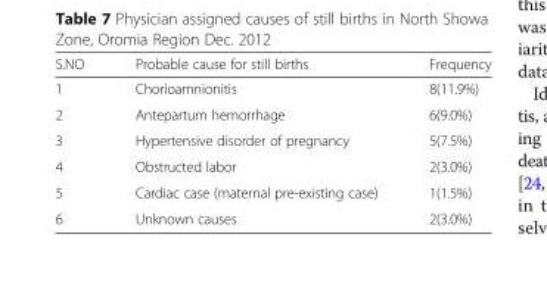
<table><thead><tr><td>S.NO</td><td>Probable cause for still births</td><td>Frequency</td></tr></thead><tbody><tr><td>1</td><td>Chorioamnionitis</td><td>8(11.9%)</td></tr><tr><td>2</td><td>Antepartum hemorrhage</td><td>6(9.0%)</td></tr><tr><td>3</td><td>Hypertensive disorder of pregnancy</td><td>5(7.5%)</td></tr><tr><td>4</td><td>Obstructed labor</td><td>2(3.0%)</td></tr><tr><td>5</td><td>Cardiac case (maternal pre-existing case)</td><td>1(1.5%)</td></tr><tr><td>6</td><td>Unknown causes</td><td>2(3.0%)</td></tr></tbody></table>